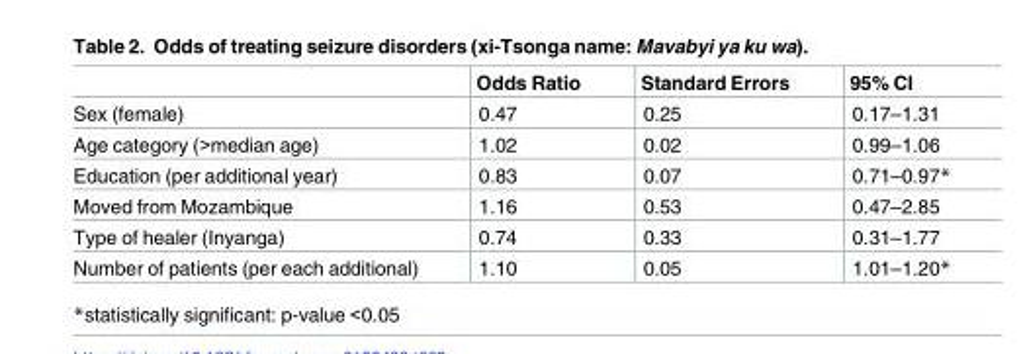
<table><thead><tr><td></td><td>Odds Ratio</td><td>Standard Errors</td><td>95% CI</td></tr></thead><tbody><tr><td>Sex (female)</td><td>0.47</td><td>0.25</td><td>0.17–1.31</td></tr><tr><td>Age category (&gt;median age)</td><td>1.02</td><td>0.02</td><td>0.99–1.06</td></tr><tr><td>Education (per additional year)</td><td>0.83</td><td>0.07</td><td>0.71–0.97*</td></tr><tr><td>Moved from Mozambique</td><td>1.16</td><td>0.53</td><td>0.47–2.85</td></tr><tr><td>Type of healer (Inyanga)</td><td>0.74</td><td>0.33</td><td>0.31–1.77</td></tr><tr><td>Number of patients (per each additional)</td><td>1.10</td><td>0.05</td><td>1.01–1.20*</td></tr></tbody></table>